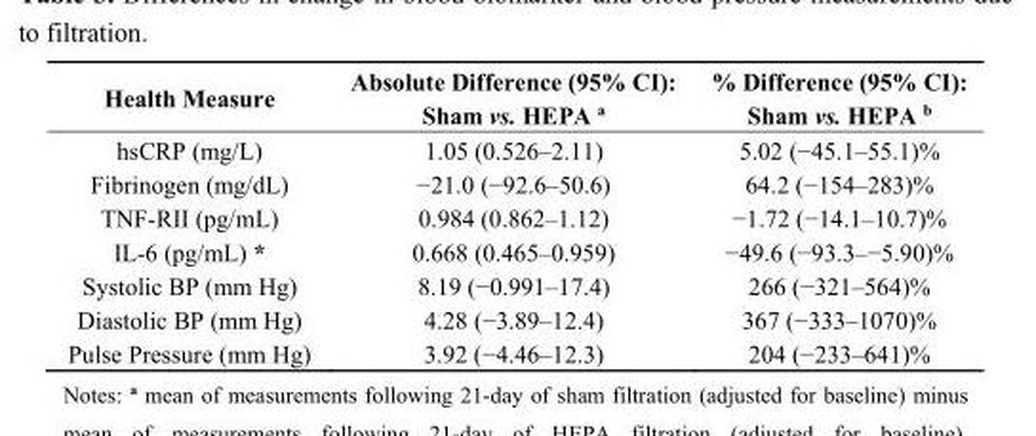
<table><thead><tr><td>Health Measure</td><td>Absolute Difference (95% CI): Sham vs. HEPA <sup>a</sup></td><td>% Difference (95% CI): Sham vs. HEPA <sup>b</sup></td></tr></thead><tbody><tr><td>hsCRP (mg/L)</td><td>1.05 (0.526–2.11)</td><td>5.02 (−45.1–55.1)%</td></tr><tr><td>Fibrinogen (mg/dL)</td><td>−21.0 (−92.6‒50.6)</td><td>64.2 (−154–283)%</td></tr><tr><td>TNF-RII (pg/mL)</td><td>0.984 (0.862–1.12)</td><td>−1.72 (−14.1–10.7)%</td></tr><tr><td>IL-6 (pg/mL) *</td><td>0.668 (0.465–0.959)</td><td>−49.6 (−93.3–−5.90)%</td></tr><tr><td>Systolic BP (mm Hg)</td><td>8.19 (−0.991‒17.4)</td><td>266 (−321–564)%</td></tr><tr><td>Diastolic BP (mm Hg)</td><td>4.28 (−3.89‒12.4)</td><td>367 (−333–1070)%</td></tr><tr><td>Pulse Pressure (mm Hg)</td><td>3.92 (−4.46‒12.3)</td><td>204 (−233–641)%</td></tr></tbody></table>